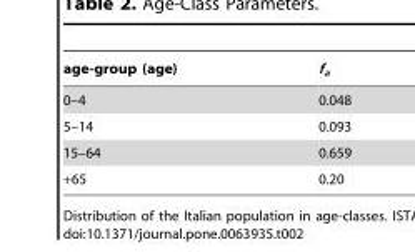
<table><thead><tr><td>age-group (age)</td><td>f<sub>a</sub></td></tr></thead><tbody><tr><td>0–4</td><td>0.048</td></tr><tr><td>5–14</td><td>0.093</td></tr><tr><td>15–64</td><td>0.659</td></tr><tr><td>+65</td><td>0.20</td></tr></tbody></table>